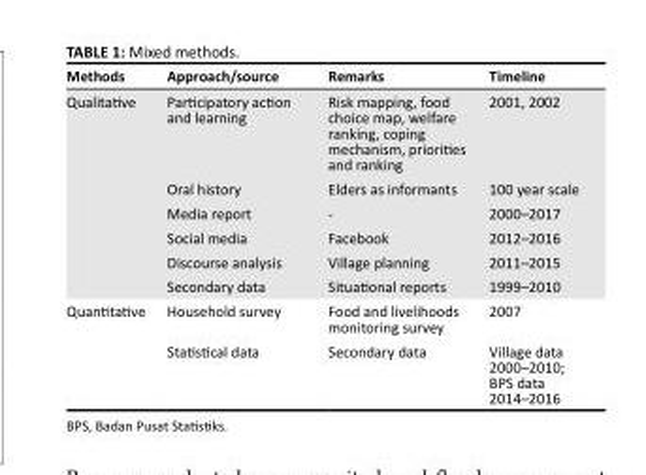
<table><thead><tr><td>Methods</td><td>Approach/source</td><td>Remarks</td><td>Timeline</td></tr></thead><tbody><tr><td rowspan="6">Qualitative</td><td>Participatory action and learning</td><td>Risk mapping, food choice map, welfare ranking, coping mechanism, priorities and ranking</td><td>2001, 2002</td></tr><tr><td>Oral history</td><td>Elders as informants</td><td>100 year scale</td></tr><tr><td>Media report</td><td>-</td><td>2000–2017</td></tr><tr><td>Social media</td><td>Facebook</td><td>2012–2016</td></tr><tr><td>Discourse analysis</td><td>Village planning</td><td>2011–2015</td></tr><tr><td>Secondary data</td><td>Situational reports</td><td>1999–2010</td></tr><tr><td rowspan="2">Quantitative</td><td>Household survey</td><td>Food and livelihoods monitoring survey</td><td>2007</td></tr><tr><td>Statistical data</td><td>Secondary data</td><td>Village data 2000–2010; BPS data 2014–2016</td></tr></tbody></table>